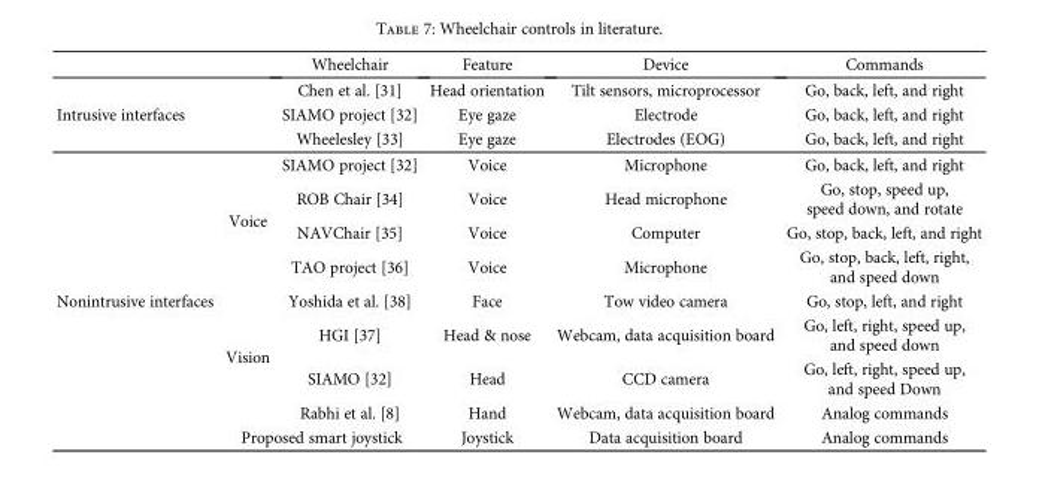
<table><thead><tr><td></td><td></td><td>Wheelchair</td><td>Feature</td><td>Device</td><td>Commands</td></tr></thead><tbody><tr><td rowspan="3" colspan="2">Intrusive interfaces</td><td>Chen et al. [31]</td><td>Head orientation</td><td>Tilt sensors, microprocessor</td><td>Go, back, left, and right</td></tr><tr><td>SIAMO project [32]</td><td>Eye gaze</td><td>Electrode</td><td>Go, back, left, and right</td></tr><tr><td>Wheelesley [33]</td><td>Eye gaze</td><td>Electrodes (EOG)</td><td>Go, back, left, and right</td></tr><tr><td rowspan="9">Nonintrusive interfaces</td><td rowspan="4">Voice</td><td>SIAMO project [32]</td><td>Voice</td><td>Microphone</td><td>Go, back, left, and right</td></tr><tr><td>ROB Chair [34]</td><td>Voice</td><td>Head microphone</td><td>Go, stop, speed up, speed down, and rotate</td></tr><tr><td>NAVChair [35]</td><td>Voice</td><td>Computer</td><td>Go, stop, back, left, and right</td></tr><tr><td>TAO project [36]</td><td>Voice</td><td>Microphone</td><td>Go, stop, back, left, right, and speed down</td></tr><tr><td rowspan="4">Vision</td><td>Yoshida et al. [38]</td><td>Face</td><td>Tow video camera</td><td>Go, stop, left, and right</td></tr><tr><td>HGI [37]</td><td>Head &amp; nose</td><td>Webcam, data acquisition board</td><td>Go, left, right, speed up, and speed down</td></tr><tr><td>SIAMO [32]</td><td>Head</td><td>CCD camera</td><td>Go, left, right, speed up, and speed Down</td></tr><tr><td>Rabhi et al. [8]</td><td>Hand</td><td>Webcam, data acquisition board</td><td>Analog commands</td></tr><tr><td colspan="2">Proposed smart joystick</td><td>Joystick</td><td>Data acquisition board</td><td>Analog commands</td></tr></tbody></table>